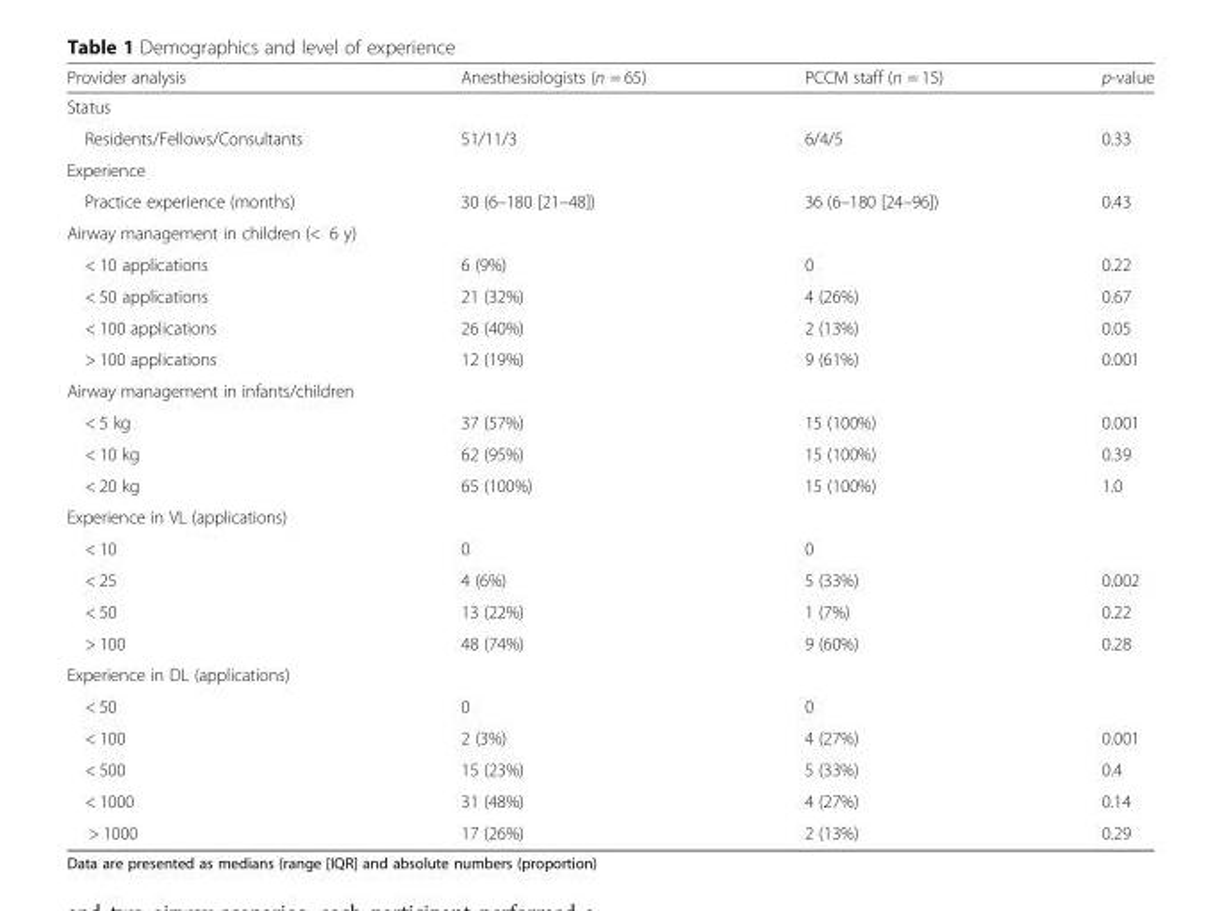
<table><thead><tr><td>Provider analysis</td><td>Anesthesiologists (n = 65)</td><td>PCCM staff (n = 15)</td><td>p-value</td></tr></thead><tbody><tr><td colspan="4">Status</td></tr><tr><td>Residents/Fellows/Consultants</td><td>51/11/3</td><td>6/4/5</td><td>0.33</td></tr><tr><td colspan="4">Experience</td></tr><tr><td>Practice experience (months)</td><td>30 (6–180 [21–48])</td><td>36 (6–180 [24–96])</td><td>0.43</td></tr><tr><td colspan="4">Airway management in children (&lt; 6 y)</td></tr><tr><td>&lt; 10 applications</td><td>6 (9%)</td><td>0</td><td>0.22</td></tr><tr><td>&lt; 50 applications</td><td>21 (32%)</td><td>4 (26%)</td><td>0.67</td></tr><tr><td>&lt; 100 applications</td><td>26 (40%)</td><td>2 (13%)</td><td>0.05</td></tr><tr><td>&gt; 100 applications</td><td>12 (19%)</td><td>9 (61%)</td><td>0.001</td></tr><tr><td colspan="4">Airway management in infants/children</td></tr><tr><td>&lt; 5 kg</td><td>37 (57%)</td><td>15 (100%)</td><td>0.001</td></tr><tr><td>&lt; 10 kg</td><td>62 (95%)</td><td>15 (100%)</td><td>0.39</td></tr><tr><td>&lt; 20 kg</td><td>65 (100%)</td><td>15 (100%)</td><td>1.0</td></tr><tr><td colspan="4">Experience in VL (applications)</td></tr><tr><td>&lt; 10</td><td>0</td><td>0</td><td></td></tr><tr><td>&lt; 25</td><td>4 (6%)</td><td>5 (33%)</td><td>0.002</td></tr><tr><td>&lt; 50</td><td>13 (22%)</td><td>1 (7%)</td><td>0.22</td></tr><tr><td>&gt; 100</td><td>48 (74%)</td><td>9 (60%)</td><td>0.28</td></tr><tr><td colspan="4">Experience in DL (applications)</td></tr><tr><td>&lt; 50</td><td>0</td><td>0</td><td></td></tr><tr><td>&lt; 100</td><td>2 (3%)</td><td>4 (27%)</td><td>0.001</td></tr><tr><td>&lt; 500</td><td>15 (23%)</td><td>5 (33%)</td><td>0.4</td></tr><tr><td>&lt; 1000</td><td>31 (48%)</td><td>4 (27%)</td><td>0.14</td></tr><tr><td>&gt; 1000</td><td>17 (26%)</td><td>2 (13%)</td><td>0.29</td></tr></tbody></table>